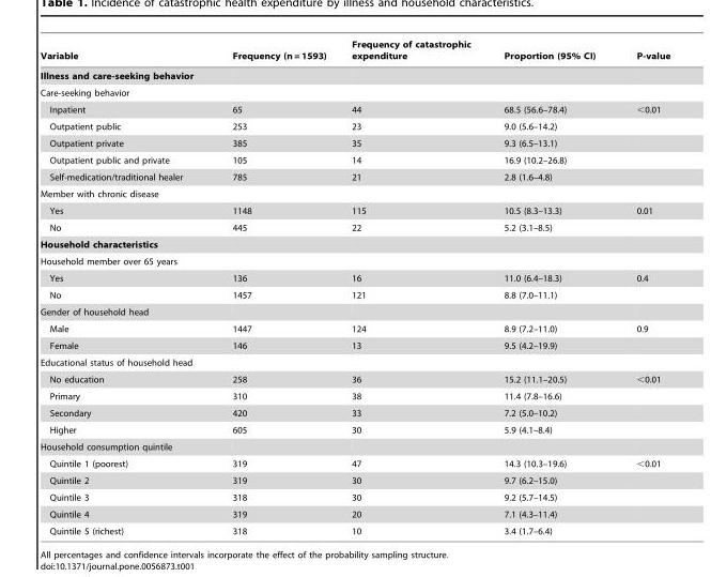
<table><thead><tr><td>Variable</td><td>Frequency (n = 1593)</td><td>Frequency of catastrophic expenditure</td><td>Proportion (95% CI)</td><td>P-value</td></tr></thead><tbody><tr><td colspan="5">Illness and care-seeking behavior</td></tr><tr><td colspan="5">Care-seeking behavior</td></tr><tr><td>Inpatient</td><td>65</td><td>44</td><td>68.5 (56.6–78.4)</td><td>&lt;0.01</td></tr><tr><td>Outpatient public</td><td>253</td><td>23</td><td>9.0 (5.6–14.2)</td><td></td></tr><tr><td>Outpatient private</td><td>385</td><td>35</td><td>9.3 (6.5–13.1)</td><td></td></tr><tr><td>Outpatient public and private</td><td>105</td><td>14</td><td>16.9 (10.2–26.8)</td><td></td></tr><tr><td>Self-medication/traditional healer</td><td>785</td><td>21</td><td>2.8 (1.6–4.8)</td><td></td></tr><tr><td colspan="5">Member with chronic disease</td></tr><tr><td>Yes</td><td>1148</td><td>115</td><td>10.5 (8.3–13.3)</td><td>0.01</td></tr><tr><td>No</td><td>445</td><td>22</td><td>5.2 (3.1–8.5)</td><td></td></tr><tr><td colspan="5">Household characteristics</td></tr><tr><td colspan="5">Household member over 65 years</td></tr><tr><td>Yes</td><td>136</td><td>16</td><td>11.0 (6.4–18.3)</td><td>0.4</td></tr><tr><td>No</td><td>1457</td><td>121</td><td>8.8 (7.0–11.1)</td><td></td></tr><tr><td colspan="5">Gender of household head</td></tr><tr><td>Male</td><td>1447</td><td>124</td><td>8.9 (7.2–11.0)</td><td>0.9</td></tr><tr><td>Female</td><td>146</td><td>13</td><td>9.5 (4.2–19.9)</td><td></td></tr><tr><td colspan="5">Educational status of household head</td></tr><tr><td>No education</td><td>258</td><td>36</td><td>15.2 (11.1–20.5)</td><td>&lt;0.01</td></tr><tr><td>Primary</td><td>310</td><td>38</td><td>11.4 (7.8–16.6)</td><td></td></tr><tr><td>Secondary</td><td>420</td><td>33</td><td>7.2 (5.0–10.2)</td><td></td></tr><tr><td>Higher</td><td>605</td><td>30</td><td>5.9 (4.1–8.4)</td><td></td></tr><tr><td colspan="5">Household consumption quintile</td></tr><tr><td>Quintile 1 (poorest)</td><td>319</td><td>47</td><td>14.3 (10.3–19.6)</td><td>&lt;0.01</td></tr><tr><td>Quintile 2</td><td>319</td><td>30</td><td>9.7 (6.2–15.0)</td><td></td></tr><tr><td>Quintile 3</td><td>318</td><td>30</td><td>9.2 (5.7–14.5)</td><td></td></tr><tr><td>Quintile 4</td><td>319</td><td>20</td><td>7.1 (4.3–11.4)</td><td></td></tr><tr><td>Quintile 5 (richest)</td><td>318</td><td>10</td><td>3.4 (1.7–6.4)</td><td></td></tr></tbody></table>